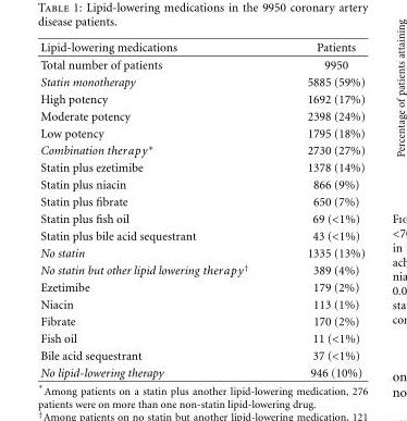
<table><thead><tr><td>Lipid-lowering medications</td><td>Patients</td></tr></thead><tbody><tr><td>Total number of patients</td><td>9950</td></tr><tr><td>Statin monotherapy</td><td>5885 (59%)</td></tr><tr><td>High potency</td><td>1692 (17%)</td></tr><tr><td>Moderate potency</td><td>2398 (24%)</td></tr><tr><td>Low potency</td><td>1795 (18%)</td></tr><tr><td>Combination therapy∗</td><td>2730 (27%)</td></tr><tr><td>Statin plus ezetimibe</td><td>1378 (14%)</td></tr><tr><td>Statin plus niacin</td><td>866 (9%)</td></tr><tr><td>Statin plus fibrate</td><td>650 (7%)</td></tr><tr><td>Statin plus fish oil</td><td>69 (&lt;1%)</td></tr><tr><td>Statin plus bile acid sequestrant</td><td>43 (&lt;1%)</td></tr><tr><td>No statin</td><td>1335 (13%)</td></tr><tr><td>No statin but other lipid lowering therapy<sup>†</sup></td><td>389 (4%)</td></tr><tr><td>Ezetimibe</td><td>179 (2%)</td></tr><tr><td>Niacin</td><td>113 (1%)</td></tr><tr><td>Fibrate</td><td>170 (2%)</td></tr><tr><td>Fish oil</td><td>11 (&lt;1%)</td></tr><tr><td>Bile acid sequestrant</td><td>37 (&lt;1%)</td></tr><tr><td>No lipid-lowering therapy</td><td>946 (10%)</td></tr></tbody></table>